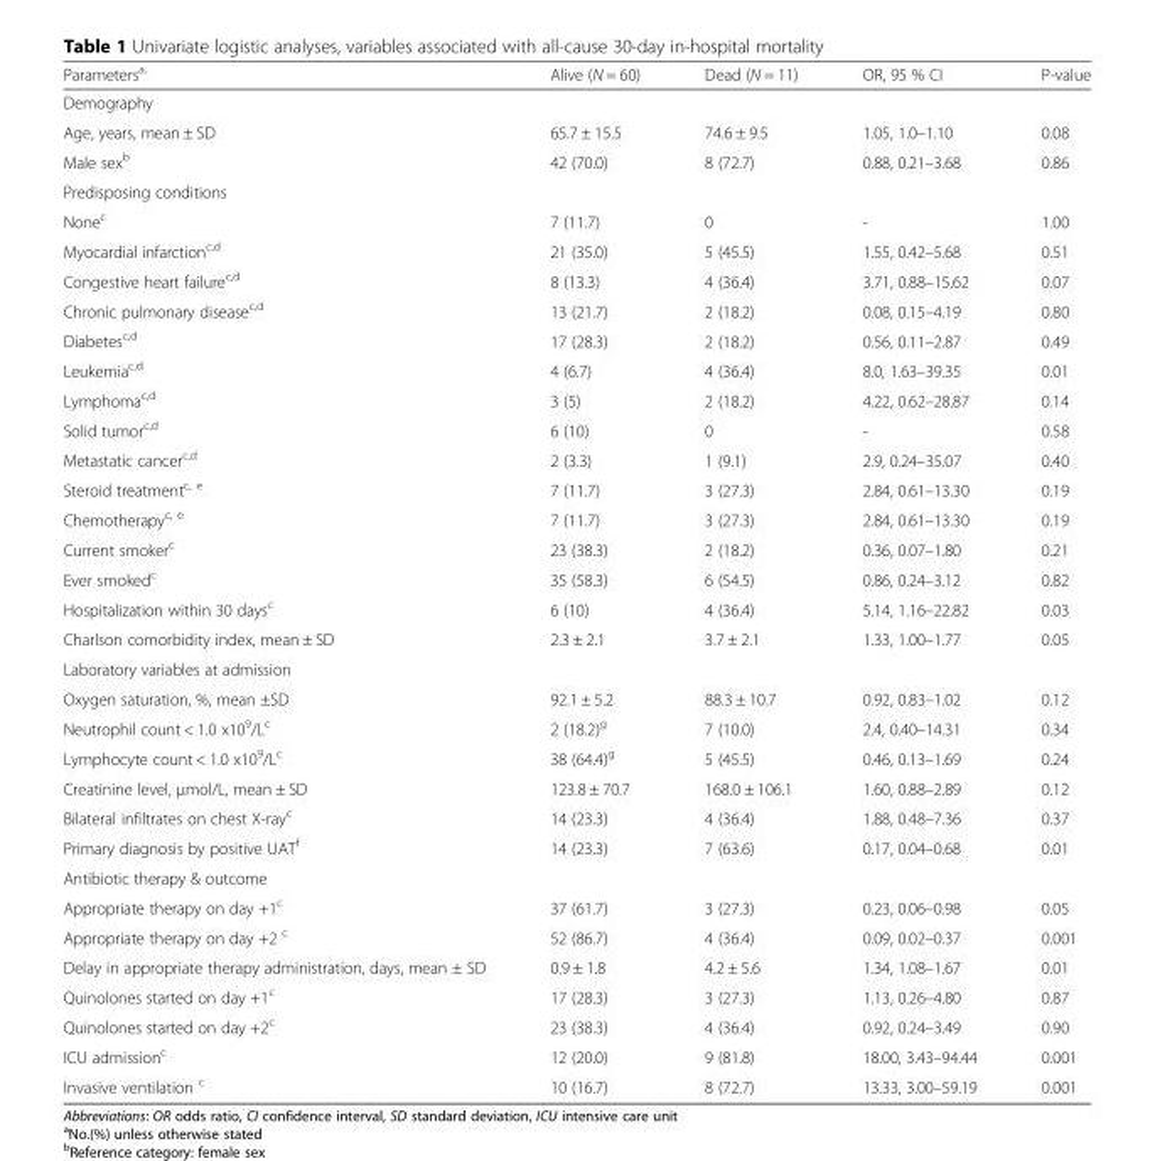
<table><thead><tr><td>Parameters<sup>a,</sup></td><td>Alive (N = 60)</td><td>Dead (N = 11)</td><td>OR, 95 % CI</td><td>P-value</td></tr></thead><tbody><tr><td colspan="5">Demography</td></tr><tr><td>Age, years, mean ± SD</td><td>65.7 ± 15.5</td><td>74.6 ± 9.5</td><td>1.05, 1.0–1.10</td><td>0.08</td></tr><tr><td>Male sex<sup>b</sup></td><td>42 (70.0)</td><td>8 (72.7)</td><td>0.88, 0.21–3.68</td><td>0.86</td></tr><tr><td colspan="5">Predisposing conditions</td></tr><tr><td>None<sup>c</sup></td><td>7 (11.7)</td><td>0</td><td>-</td><td>1.00</td></tr><tr><td>Myocardial infarction<sup>c,d</sup></td><td>21 (35.0)</td><td>5 (45.5)</td><td>1.55, 0.42–5.68</td><td>0.51</td></tr><tr><td>Congestive heart failure<sup>c,d</sup></td><td>8 (13.3)</td><td>4 (36.4)</td><td>3.71, 0.88–15.62</td><td>0.07</td></tr><tr><td>Chronic pulmonary disease<sup>c,d</sup></td><td>13 (21.7)</td><td>2 (18.2)</td><td>0.08, 0.15–4.19</td><td>0.80</td></tr><tr><td>Diabetes<sup>c,d</sup></td><td>17 (28.3)</td><td>2 (18.2)</td><td>0.56, 0.11–2.87</td><td>0.49</td></tr><tr><td>Leukemia<sup>c,d</sup></td><td>4 (6.7)</td><td>4 (36.4)</td><td>8.0, 1.63–39.35</td><td>0.01</td></tr><tr><td>Lymphoma<sup>c,d</sup></td><td>3 (5)</td><td>2 (18.2)</td><td>4.22, 0.62–28.87</td><td>0.14</td></tr><tr><td>Solid tumor<sup>c,d</sup></td><td>6 (10)</td><td>0</td><td>-</td><td>0.58</td></tr><tr><td>Metastatic cancer<sup>c,d</sup></td><td>2 (3.3)</td><td>1 (9.1)</td><td>2.9, 0.24–35.07</td><td>0.40</td></tr><tr><td>Steroid treatment<sup>c, e</sup></td><td>7 (11.7)</td><td>3 (27.3)</td><td>2.84, 0.61–13.30</td><td>0.19</td></tr><tr><td>Chemotherapy<sup>c, e</sup></td><td>7 (11.7)</td><td>3 (27.3)</td><td>2.84, 0.61–13.30</td><td>0.19</td></tr><tr><td>Current smoker<sup>c</sup></td><td>23 (38.3)</td><td>2 (18.2)</td><td>0.36, 0.07–1.80</td><td>0.21</td></tr><tr><td>Ever smoked<sup>c</sup></td><td>35 (58.3)</td><td>6 (54.5)</td><td>0.86, 0.24–3.12</td><td>0.82</td></tr><tr><td>Hospitalization within 30 days<sup>c</sup></td><td>6 (10)</td><td>4 (36.4)</td><td>5.14, 1.16–22.82</td><td>0.03</td></tr><tr><td>Charlson comorbidity index, mean ± SD</td><td>2.3 ± 2.1</td><td>3.7 ± 2.1</td><td>1.33, 1.00–1.77</td><td>0.05</td></tr><tr><td colspan="5">Laboratory variables at admission</td></tr><tr><td>Oxygen saturation, %, mean ±SD</td><td>92.1 ± 5.2</td><td>88.3 ± 10.7</td><td>0.92, 0.83–1.02</td><td>0.12</td></tr><tr><td>Neutrophil count &lt; 1.0 x10<sup>9</sup>/L<sup>c</sup></td><td>2 (18.2)<sup>g</sup></td><td>7 (10.0)</td><td>2.4, 0.40–14.31</td><td>0.34</td></tr><tr><td>Lymphocyte count &lt; 1.0 x10<sup>9</sup>/L<sup>c</sup></td><td>38 (64.4)<sup>g</sup></td><td>5 (45.5)</td><td>0.46, 0.13–1.69</td><td>0.24</td></tr><tr><td>Creatinine level, μmol/L, mean ± SD</td><td>123.8 ± 70.7</td><td>168.0 ± 106.1</td><td>1.60, 0.88–2.89</td><td>0.12</td></tr><tr><td>Bilateral infiltrates on chest X-ray<sup>c</sup></td><td>14 (23.3)</td><td>4 (36.4)</td><td>1.88, 0.48–7.36</td><td>0.37</td></tr><tr><td>Primary diagnosis by positive UAT<sup>f</sup></td><td>14 (23.3)</td><td>7 (63.6)</td><td>0.17, 0.04–0.68</td><td>0.01</td></tr><tr><td colspan="5">Antibiotic therapy &amp; outcome</td></tr><tr><td>Appropriate therapy on day +1<sup>c</sup></td><td>37 (61.7)</td><td>3 (27.3)</td><td>0.23, 0.06–0.98</td><td>0.05</td></tr><tr><td>Appropriate therapy on day +2 <sup>c</sup></td><td>52 (86.7)</td><td>4 (36.4)</td><td>0.09, 0.02–0.37</td><td>0.001</td></tr><tr><td>Delay in appropriate therapy administration, days, mean ± SD</td><td>0.9 ± 1.8</td><td>4.2 ± 5.6</td><td>1.34, 1.08–1.67</td><td>0.01</td></tr><tr><td>Quinolones started on day +1<sup>c</sup></td><td>17 (28.3)</td><td>3 (27.3)</td><td>1.13, 0.26–4.80</td><td>0.87</td></tr><tr><td>Quinolones started on day +2<sup>c</sup></td><td>23 (38.3)</td><td>4 (36.4)</td><td>0.92, 0.24–3.49</td><td>0.90</td></tr><tr><td>ICU admission<sup>c</sup></td><td>12 (20.0)</td><td>9 (81.8)</td><td>18.00, 3.43–94.44</td><td>0.001</td></tr><tr><td>Invasive ventilation <sup>c</sup></td><td>10 (16.7)</td><td>8 (72.7)</td><td>13.33, 3.00–59.19</td><td>0.001</td></tr></tbody></table>